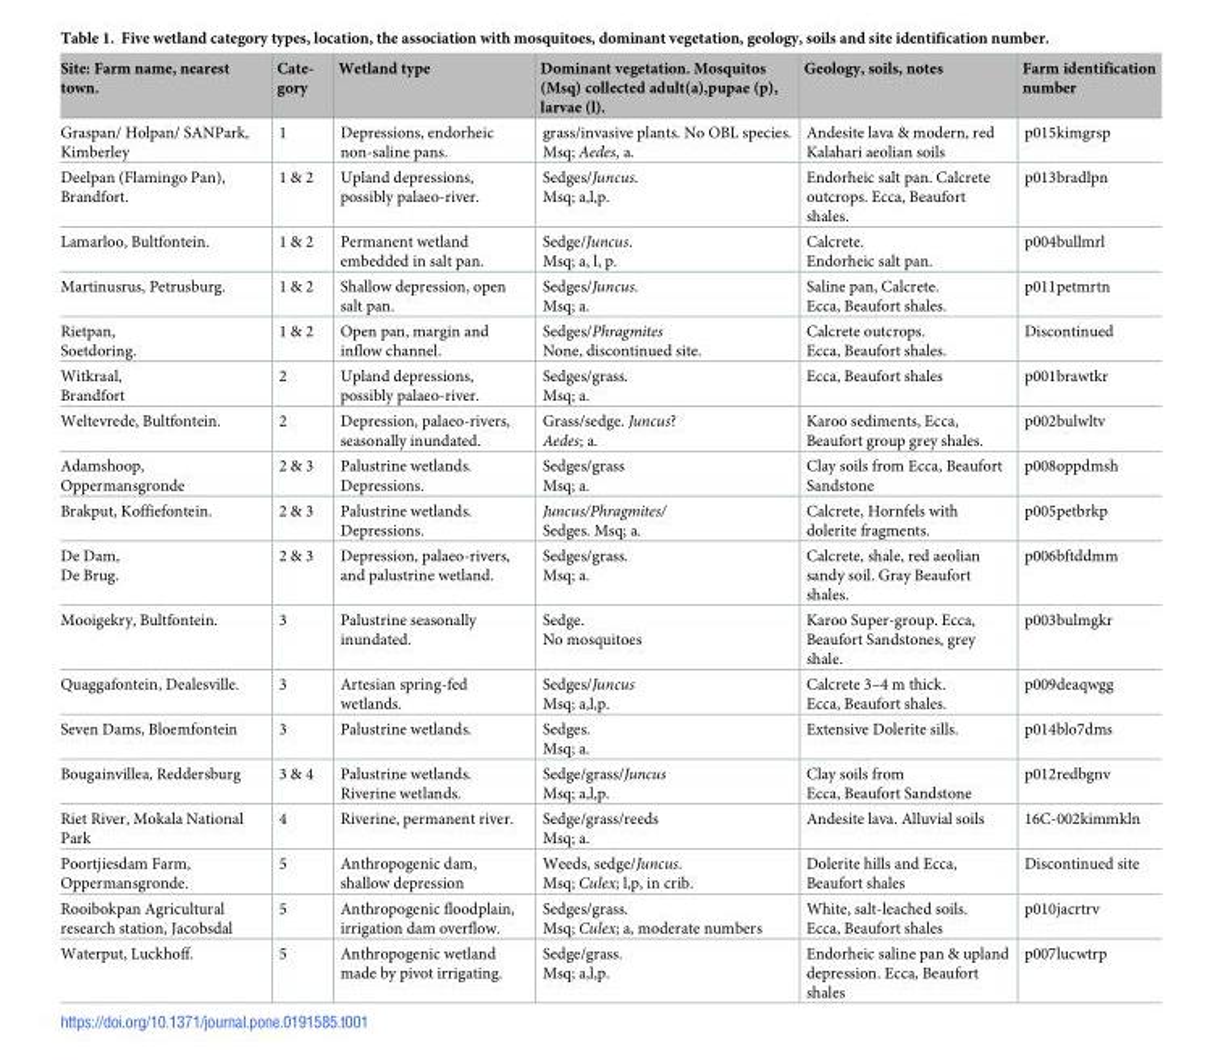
<table><thead><tr><td>Site: Farm name, nearest town.</td><td>Cate- gory</td><td>Wetland type</td><td>Dominant vegetation. Mosquitos (Msq) collected adult(a),pupae (p), larvae (l).</td><td>Geology, soils, notes</td><td>Farm identification number</td></tr></thead><tbody><tr><td>Graspan/ Holpan/ SANPark, Kimberley</td><td>1</td><td>Depressions, endorheic non-saline pans.</td><td>grass/invasive plants. No OBL species. Msq; Aedes, a.</td><td>Andesite lava &amp; modern, red Kalahari aeolian soils</td><td>p015kimgrsp</td></tr><tr><td>Deelpan (Flamingo Pan), Brandfort.</td><td>1 &amp; 2</td><td>Upland depressions, possibly palaeo-river.</td><td>Sedges/Juncus. Msq; a,l,p.</td><td>Endorheic salt pan. Calcrete outcrops. Ecca, Beaufort shales.</td><td>p013bradlpn</td></tr><tr><td>Lamarloo, Bultfontein.</td><td>1 &amp; 2</td><td>Permanent wetland embedded in salt pan.</td><td>Sedge/Juncus. Msq; a, l, p.</td><td>Calcrete. Endorheic salt pan.</td><td>p004bullmrl</td></tr><tr><td>Martinusrus, Petrusburg.</td><td>1 &amp; 2</td><td>Shallow depression, open salt pan.</td><td>Sedges/Juncus. Msq; a.</td><td>Saline pan, Calcrete. Ecca, Beaufort shales.</td><td>p011petmrtn</td></tr><tr><td>Rietpan, Soetdoring.</td><td>1 &amp; 2</td><td>Open pan, margin and inflow channel.</td><td>Sedges/Phragmites None, discontinued site.</td><td>Calcrete outcrops. Ecca, Beaufort shales.</td><td>Discontinued</td></tr><tr><td>Witkraal, Brandfort</td><td>2</td><td>Upland depressions, possibly palaeo-river.</td><td>Sedges/grass. Msq; a.</td><td>Ecca, Beaufort shales</td><td>p001brawtkr</td></tr><tr><td>Weltevrede, Bultfontein.</td><td>2</td><td>Depression, palaeo-rivers, seasonally inundated.</td><td>Grass/sedge. Juncus? Aedes; a.</td><td>Karoo sediments, Ecca, Beaufort group grey shales.</td><td>p002bulwltv</td></tr><tr><td>Adamshoop, Oppermansgronde</td><td>2 &amp; 3</td><td>Palustrine wetlands. Depressions.</td><td>Sedges/grass Msq; a.</td><td>Clay soils from Ecca, Beaufort Sandstone</td><td>p008oppdmsh</td></tr><tr><td>Brakput, Koffiefontein.</td><td>2 &amp; 3</td><td>Palustrine wetlands. Depressions.</td><td>Juncus/Phragmites/ Sedges. Msq; a.</td><td>Calcrete, Hornfels with dolerite fragments.</td><td>p005petbrkp</td></tr><tr><td>De Dam, De Brug.</td><td>2 &amp; 3</td><td>Depression, palaeo-rivers, and palustrine wetland.</td><td>Sedges/grass. Msq; a.</td><td>Calcrete, shale, red aeolian sandy soil. Gray Beaufort shales.</td><td>p006bftddmm</td></tr><tr><td>Mooigekry, Bultfontein.</td><td>3</td><td>Palustrine seasonally inundated.</td><td>Sedge. No mosquitoes</td><td>Karoo Super-group. Ecca, Beaufort Sandstones, grey shale.</td><td>p003bulmgkr</td></tr><tr><td>Quaggafontein, Dealesville.</td><td>3</td><td>Artesian spring-fed wetlands.</td><td>Sedges/Juncus Msq; a,l,p.</td><td>Calcrete 3–4 m thick. Ecca, Beaufort shales.</td><td>p009deaqwgg</td></tr><tr><td>Seven Dams, Bloemfontein</td><td>3</td><td>Palustrine wetlands.</td><td>Sedges. Msq; a.</td><td>Extensive Dolerite sills.</td><td>p014blo7dms</td></tr><tr><td>Bougainvillea, Reddersburg</td><td>3 &amp; 4</td><td>Palustrine wetlands. Riverine wetlands.</td><td>Sedge/grass/Juncus Msq; a,l,p.</td><td>Clay soils from Ecca, Beaufort Sandstone</td><td>p012redbgnv</td></tr><tr><td>Riet River, Mokala National Park</td><td>4</td><td>Riverine, permanent river.</td><td>Sedge/grass/reeds Msq; a.</td><td>Andesite lava. Alluvial soils</td><td>16C-002kimmkln</td></tr><tr><td>Poortjiesdam Farm, Oppermansgronde.</td><td>5</td><td>Anthropogenic dam, shallow depression</td><td>Weeds, sedge/Juncus. Msq; Culex; l,p, in crib.</td><td>Dolerite hills and Ecca, Beaufort shales</td><td>Discontinued site</td></tr><tr><td>Rooibokpan Agricultural research station, Jacobsdal</td><td>5</td><td>Anthropogenic floodplain, irrigation dam overflow.</td><td>Sedges/grass. Msq; Culex; a, moderate numbers</td><td>White, salt-leached soils. Ecca, Beaufort shales</td><td>p010jacrtrv</td></tr><tr><td>Waterput, Luckhoff.</td><td>5</td><td>Anthropogenic wetland made by pivot irrigating.</td><td>Sedge/grass. Msq; a,l,p.</td><td>Endorheic saline pan &amp; upland depression. Ecca, Beaufort shales</td><td>p007lucwtrp</td></tr></tbody></table>